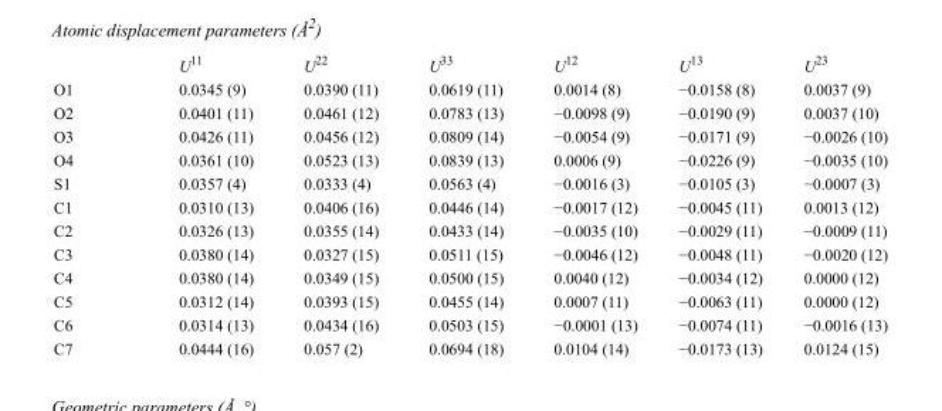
<table><thead><tr><td></td><td>U<sup>11</sup></td><td>U<sup>22</sup></td><td>U<sup>33</sup></td><td>U<sup>12</sup></td><td>U<sup>13</sup></td><td>U<sup>23</sup></td></tr></thead><tbody><tr><td>O1</td><td>0.0345 (9)</td><td>0.0390 (11)</td><td>0.0619 (11)</td><td>0.0014 (8)</td><td>−0.0158 (8)</td><td>0.0037 (9)</td></tr><tr><td>O2</td><td>0.0401 (11)</td><td>0.0461 (12)</td><td>0.0783 (13)</td><td>−0.0098 (9)</td><td>−0.0190 (9)</td><td>0.0037 (10)</td></tr><tr><td>O3</td><td>0.0426 (11)</td><td>0.0456 (12)</td><td>0.0809 (14)</td><td>−0.0054 (9)</td><td>−0.0171 (9)</td><td>−0.0026 (10)</td></tr><tr><td>O4</td><td>0.0361 (10)</td><td>0.0523 (13)</td><td>0.0839 (13)</td><td>0.0006 (9)</td><td>−0.0226 (9)</td><td>−0.0035 (10)</td></tr><tr><td>S1</td><td>0.0357 (4)</td><td>0.0333 (4)</td><td>0.0563 (4)</td><td>−0.0016 (3)</td><td>−0.0105 (3)</td><td>−0.0007 (3)</td></tr><tr><td>C1</td><td>0.0310 (13)</td><td>0.0406 (16)</td><td>0.0446 (14)</td><td>−0.0017 (12)</td><td>−0.0045 (11)</td><td>0.0013 (12)</td></tr><tr><td>C2</td><td>0.0326 (13)</td><td>0.0355 (14)</td><td>0.0433 (14)</td><td>−0.0035 (10)</td><td>−0.0029 (11)</td><td>−0.0009 (11)</td></tr><tr><td>C3</td><td>0.0380 (14)</td><td>0.0327 (15)</td><td>0.0511 (15)</td><td>−0.0046 (12)</td><td>−0.0048 (11)</td><td>−0.0020 (12)</td></tr><tr><td>C4</td><td>0.0380 (14)</td><td>0.0349 (15)</td><td>0.0500 (15)</td><td>0.0040 (12)</td><td>−0.0034 (12)</td><td>0.0000 (12)</td></tr><tr><td>C5</td><td>0.0312 (14)</td><td>0.0393 (15)</td><td>0.0455 (14)</td><td>0.0007 (11)</td><td>−0.0063 (11)</td><td>0.0000 (12)</td></tr><tr><td>C6</td><td>0.0314 (13)</td><td>0.0434 (16)</td><td>0.0503 (15)</td><td>−0.0001 (13)</td><td>−0.0074 (11)</td><td>−0.0016 (13)</td></tr><tr><td>C7</td><td>0.0444 (16)</td><td>0.057 (2)</td><td>0.0694 (18)</td><td>0.0104 (14)</td><td>−0.0173 (13)</td><td>0.0124 (15)</td></tr></tbody></table>